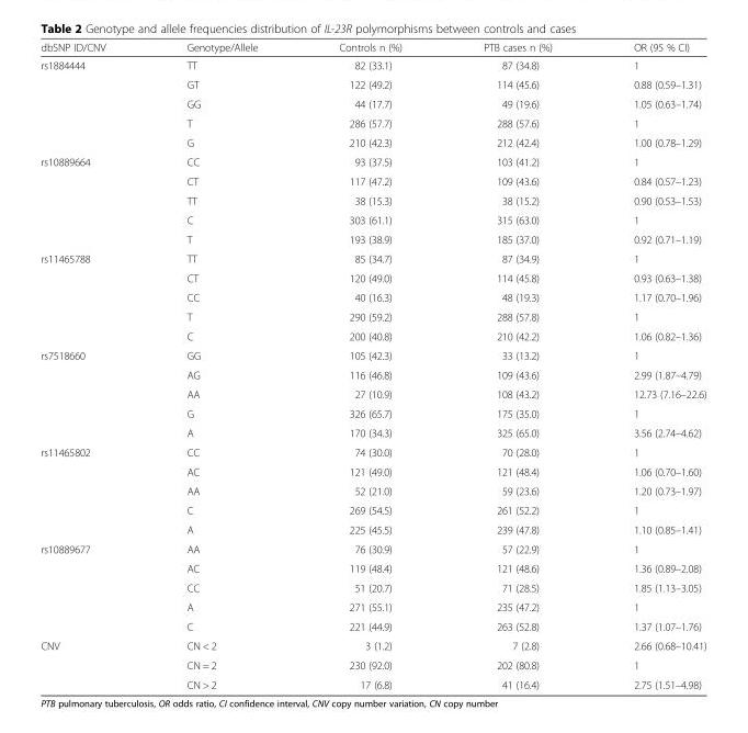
<table><thead><tr><td>dbSNP ID/CNV</td><td>Genotype/Allele</td><td>Controls n (%)</td><td>PTB cases n (%)</td><td>OR (95 % CI)</td></tr></thead><tbody><tr><td rowspan="5">rs1884444</td><td>TT</td><td>82 (33.1)</td><td>87 (34.8)</td><td>1</td></tr><tr><td>GT</td><td>122 (49.2)</td><td>114 (45.6)</td><td>0.88 (0.59–1.31)</td></tr><tr><td>GG</td><td>44 (17.7)</td><td>49 (19.6)</td><td>1.05 (0.63–1.74)</td></tr><tr><td>T</td><td>286 (57.7)</td><td>288 (57.6)</td><td>1</td></tr><tr><td>G</td><td>210 (42.3)</td><td>212 (42.4)</td><td>1.00 (0.78–1.29)</td></tr><tr><td rowspan="5">rs10889664</td><td>CC</td><td>93 (37.5)</td><td>103 (41.2)</td><td>1</td></tr><tr><td>CT</td><td>117 (47.2)</td><td>109 (43.6)</td><td>0.84 (0.57–1.23)</td></tr><tr><td>TT</td><td>38 (15.3)</td><td>38 (15.2)</td><td>0.90 (0.53–1.53)</td></tr><tr><td>C</td><td>303 (61.1)</td><td>315 (63.0)</td><td>1</td></tr><tr><td>T</td><td>193 (38.9)</td><td>185 (37.0)</td><td>0.92 (0.71–1.19)</td></tr><tr><td rowspan="5">rs11465788</td><td>TT</td><td>85 (34.7)</td><td>87 (34.9)</td><td>1</td></tr><tr><td>CT</td><td>120 (49.0)</td><td>114 (45.8)</td><td>0.93 (0.63–1.38)</td></tr><tr><td>CC</td><td>40 (16.3)</td><td>48 (19.3)</td><td>1.17 (0.70–1.96)</td></tr><tr><td>T</td><td>290 (59.2)</td><td>288 (57.8)</td><td>1</td></tr><tr><td>C</td><td>200 (40.8)</td><td>210 (42.2)</td><td>1.06 (0.82–1.36)</td></tr><tr><td rowspan="5">rs7518660</td><td>GG</td><td>105 (42.3)</td><td>33 (13.2)</td><td>1</td></tr><tr><td>AG</td><td>116 (46.8)</td><td>109 (43.6)</td><td>2.99 (1.87–4.79)</td></tr><tr><td>AA</td><td>27 (10.9)</td><td>108 (43.2)</td><td>12.73 (7.16–22.6)</td></tr><tr><td>G</td><td>326 (65.7)</td><td>175 (35.0)</td><td>1</td></tr><tr><td>A</td><td>170 (34.3)</td><td>325 (65.0)</td><td>3.56 (2.74–4.62)</td></tr><tr><td rowspan="5">rs11465802</td><td>CC</td><td>74 (30.0)</td><td>70 (28.0)</td><td>1</td></tr><tr><td>AC</td><td>121 (49.0)</td><td>121 (48.4)</td><td>1.06 (0.70–1.60)</td></tr><tr><td>AA</td><td>52 (21.0)</td><td>59 (23.6)</td><td>1.20 (0.73–1.97)</td></tr><tr><td>C</td><td>269 (54.5)</td><td>261 (52.2)</td><td>1</td></tr><tr><td>A</td><td>225 (45.5)</td><td>239 (47.8)</td><td>1.10 (0.85–1.41)</td></tr><tr><td rowspan="5">rs10889677</td><td>AA</td><td>76 (30.9)</td><td>57 (22.9)</td><td>1</td></tr><tr><td>AC</td><td>119 (48.4)</td><td>121 (48.6)</td><td>1.36 (0.89–2.08)</td></tr><tr><td>CC</td><td>51 (20.7)</td><td>71 (28.5)</td><td>1.85 (1.13–3.05)</td></tr><tr><td>A</td><td>271 (55.1)</td><td>235 (47.2)</td><td>1</td></tr><tr><td>C</td><td>221 (44.9)</td><td>263 (52.8)</td><td>1.37 (1.07–1.76)</td></tr><tr><td rowspan="3">CNV</td><td>CN &lt; 2</td><td>3 (1.2)</td><td>7 (2.8)</td><td>2.66 (0.68–10.41)</td></tr><tr><td>CN = 2</td><td>230 (92.0)</td><td>202 (80.8)</td><td>1</td></tr><tr><td>CN &gt; 2</td><td>17 (6.8)</td><td>41 (16.4)</td><td>2.75 (1.51–4.98)</td></tr></tbody></table>